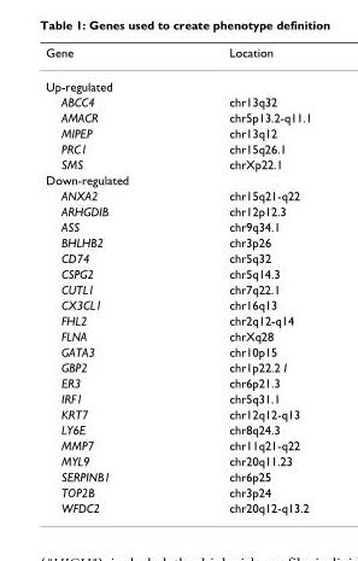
<table><thead><tr><td>Gene</td><td>Location</td></tr></thead><tbody><tr><td colspan="2">Up-regulated</td></tr><tr><td>ABCC4</td><td>chr13q32</td></tr><tr><td>AMACR</td><td>chr5p13.2-q11.1</td></tr><tr><td>MIPEP</td><td>chr13q12</td></tr><tr><td>PRC1</td><td>chr15q26.1</td></tr><tr><td>SMS</td><td>chrXp22.1</td></tr><tr><td colspan="2">Down-regulated</td></tr><tr><td>ANXA2</td><td>chr15q21-q22</td></tr><tr><td>ARHGDIB</td><td>chr12p12.3</td></tr><tr><td>ASS</td><td>chr9q34.1</td></tr><tr><td>BHLHB2</td><td>chr3p26</td></tr><tr><td>CD74</td><td>chr5q32</td></tr><tr><td>CSPG2</td><td>chr5q14.3</td></tr><tr><td>CUTL1</td><td>chr7q22.1</td></tr><tr><td>CX3CL1</td><td>chr16q13</td></tr><tr><td>FHL2</td><td>chr2q12-q14</td></tr><tr><td>FLNA</td><td>chrXq28</td></tr><tr><td>GATA3</td><td>chr10p15</td></tr><tr><td>GBP2</td><td>chr1p22.2 I</td></tr><tr><td>ER3</td><td>chr6p21.3</td></tr><tr><td>IRF1</td><td>chr5q31.1</td></tr><tr><td>KRT7</td><td>chr12q12-q13</td></tr><tr><td>LY6E</td><td>chr8q24.3</td></tr><tr><td>MMP7</td><td>chr11q21-q22</td></tr><tr><td>MYL9</td><td>chr20q11.23</td></tr><tr><td>SERPINB1</td><td>chr6p25</td></tr><tr><td>TOP2B</td><td>chr3p24</td></tr><tr><td>WFDC2</td><td>chr20q12-q13.2</td></tr></tbody></table>